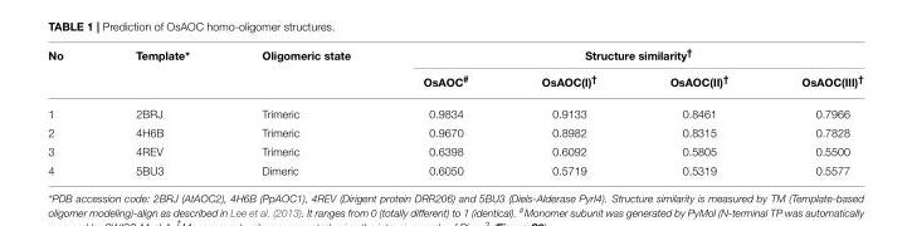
<table><thead><tr><td rowspan="2">No</td><td rowspan="2">Template*</td><td rowspan="2">Oligomeric state</td><td colspan="4">Structure similarity<sup>†</sup></td></tr><tr><td>OsAOC<sup>#</sup></td><td>OsAOC(I)<sup>†</sup></td><td>OsAOC(II)<sup>†</sup></td><td>OsAOC(III)<sup>†</sup></td></tr></thead><tbody><tr><td>1</td><td>2BRJ</td><td>Trimeric</td><td>0.9834</td><td>0.9133</td><td>0.8461</td><td>0.7966</td></tr><tr><td>2</td><td>4H6B</td><td>Trimeric</td><td>0.9670</td><td>0.8982</td><td>0.8315</td><td>0.7828</td></tr><tr><td>3</td><td>4REV</td><td>Trimeric</td><td>0.6398</td><td>0.6092</td><td>0.5805</td><td>0.5500</td></tr><tr><td>4</td><td>5BU3</td><td>Dimeric</td><td>0.6050</td><td>0.5719</td><td>0.5319</td><td>0.5577</td></tr></tbody></table>